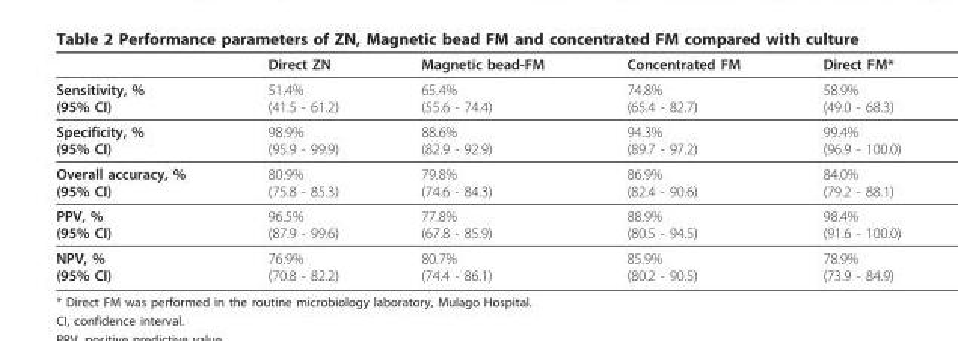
<table><thead><tr><td></td><td>Direct ZN</td><td>Magnetic bead-FM</td><td>Concentrated FM</td><td>Direct FM*</td></tr></thead><tbody><tr><td>Sensitivity, % (95% CI)</td><td>51.4% (41.5 - 61.2)</td><td>65.4% (55.6 - 74.4)</td><td>74.8% (65.4 - 82.7)</td><td>58.9% (49.0 - 68.3)</td></tr><tr><td>Specificity, % (95% CI)</td><td>98.9% (95.9 - 99.9)</td><td>88.6% (82.9 - 92.9)</td><td>94.3% (89.7 - 97.2)</td><td>99.4% (96.9 - 100.0)</td></tr><tr><td>Overall accuracy, % (95% CI)</td><td>80.9% (75.8 - 85.3)</td><td>79.8% (74.6 - 84.3)</td><td>86.9% (82.4 - 90.6)</td><td>84.0% (79.2 - 88.1)</td></tr><tr><td>PPV, % (95% CI)</td><td>96.5% (87.9 - 99.6)</td><td>77.8% (67.8 - 85.9)</td><td>88.9% (80.5 - 94.5)</td><td>98.4% (91.6 - 100.0)</td></tr><tr><td>NPV, % (95% CI)</td><td>76.9% (70.8 - 82.2)</td><td>80.7% (74.4 - 86.1)</td><td>85.9% (80.2 - 90.5)</td><td>78.9% (73.9 - 84.9)</td></tr></tbody></table>